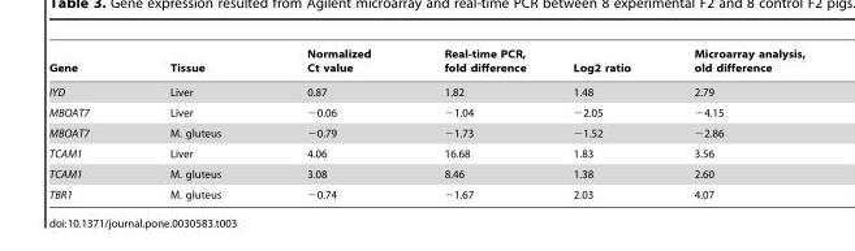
<table><thead><tr><td>Gene</td><td>Tissue</td><td>Normalized Ct value</td><td>Real-time PCR, fold difference</td><td>Log2 ratio</td><td>Microarray analysis, old difference</td></tr></thead><tbody><tr><td>IYD</td><td>Liver</td><td>0.87</td><td>1.82</td><td>1.48</td><td>2.79</td></tr><tr><td>MBOAT7</td><td>Liver</td><td>−0.06</td><td>−1.04</td><td>−2.05</td><td>−4.15</td></tr><tr><td>MBOAT7</td><td>M. gluteus</td><td>−0.79</td><td>−1.73</td><td>−1.52</td><td>−2.86</td></tr><tr><td>TCAM1</td><td>Liver</td><td>4.06</td><td>16.68</td><td>1.83</td><td>3.56</td></tr><tr><td>TCAM1</td><td>M. gluteus</td><td>3.08</td><td>8.46</td><td>1.38</td><td>2.60</td></tr><tr><td>TBR1</td><td>M. gluteus</td><td>−0.74</td><td>−1.67</td><td>2.03</td><td>4.07</td></tr></tbody></table>